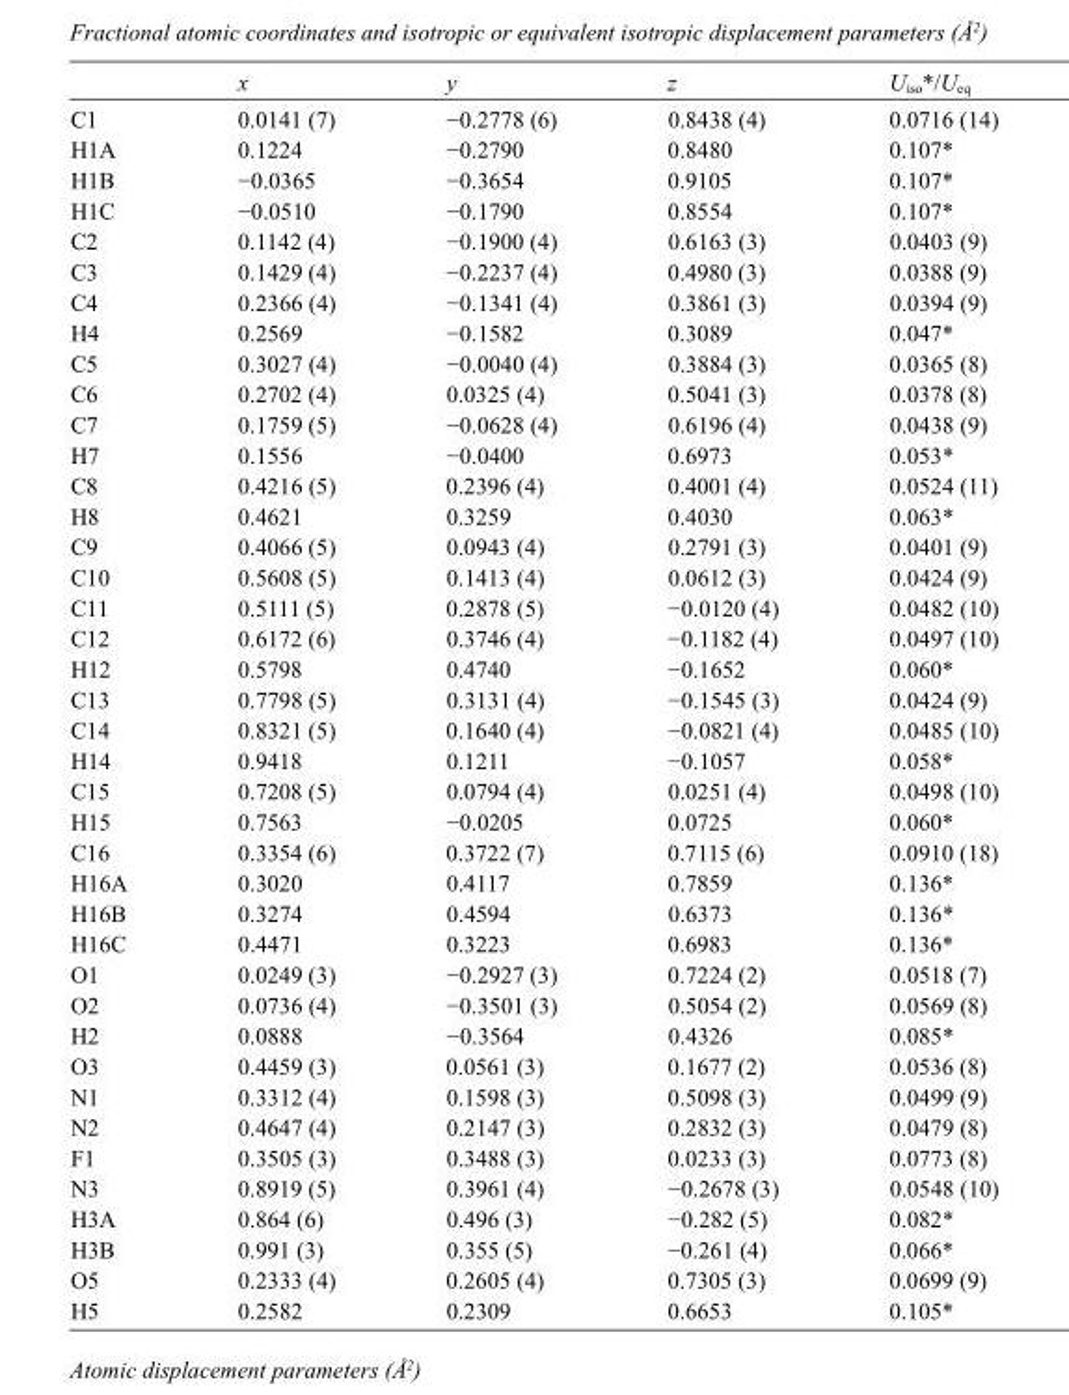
<table><thead><tr><td></td><td>x</td><td>y</td><td>z</td><td>U<sub>iso</sub>*/U<sub>eq</sub></td></tr></thead><tbody><tr><td>C1</td><td>0.0141 (7)</td><td>−0.2778 (6)</td><td>0.8438 (4)</td><td>0.0716 (14)</td></tr><tr><td>H1A</td><td>0.1224</td><td>−0.2790</td><td>0.8480</td><td>0.107*</td></tr><tr><td>H1B</td><td>−0.0365</td><td>−0.3654</td><td>0.9105</td><td>0.107*</td></tr><tr><td>H1C</td><td>−0.0510</td><td>−0.1790</td><td>0.8554</td><td>0.107*</td></tr><tr><td>C2</td><td>0.1142 (4)</td><td>−0.1900 (4)</td><td>0.6163 (3)</td><td>0.0403 (9)</td></tr><tr><td>C3</td><td>0.1429 (4)</td><td>−0.2237 (4)</td><td>0.4980 (3)</td><td>0.0388 (9)</td></tr><tr><td>C4</td><td>0.2366 (4)</td><td>−0.1341 (4)</td><td>0.3861 (3)</td><td>0.0394 (9)</td></tr><tr><td>H4</td><td>0.2569</td><td>−0.1582</td><td>0.3089</td><td>0.047*</td></tr><tr><td>C5</td><td>0.3027 (4)</td><td>−0.0040 (4)</td><td>0.3884 (3)</td><td>0.0365 (8)</td></tr><tr><td>C6</td><td>0.2702 (4)</td><td>0.0325 (4)</td><td>0.5041 (3)</td><td>0.0378 (8)</td></tr><tr><td>C7</td><td>0.1759 (5)</td><td>−0.0628 (4)</td><td>0.6196 (4)</td><td>0.0438 (9)</td></tr><tr><td>H7</td><td>0.1556</td><td>−0.0400</td><td>0.6973</td><td>0.053*</td></tr><tr><td>C8</td><td>0.4216 (5)</td><td>0.2396 (4)</td><td>0.4001 (4)</td><td>0.0524 (11)</td></tr><tr><td>H8</td><td>0.4621</td><td>0.3259</td><td>0.4030</td><td>0.063*</td></tr><tr><td>C9</td><td>0.4066 (5)</td><td>0.0943 (4)</td><td>0.2791 (3)</td><td>0.0401 (9)</td></tr><tr><td>C10</td><td>0.5608 (5)</td><td>0.1413 (4)</td><td>0.0612 (3)</td><td>0.0424 (9)</td></tr><tr><td>C11</td><td>0.5111 (5)</td><td>0.2878 (5)</td><td>−0.0120 (4)</td><td>0.0482 (10)</td></tr><tr><td>C12</td><td>0.6172 (6)</td><td>0.3746 (4)</td><td>−0.1182 (4)</td><td>0.0497 (10)</td></tr><tr><td>H12</td><td>0.5798</td><td>0.4740</td><td>−0.1652</td><td>0.060*</td></tr><tr><td>C13</td><td>0.7798 (5)</td><td>0.3131 (4)</td><td>−0.1545 (3)</td><td>0.0424 (9)</td></tr><tr><td>C14</td><td>0.8321 (5)</td><td>0.1640 (4)</td><td>−0.0821 (4)</td><td>0.0485 (10)</td></tr><tr><td>H14</td><td>0.9418</td><td>0.1211</td><td>−0.1057</td><td>0.058*</td></tr><tr><td>C15</td><td>0.7208 (5)</td><td>0.0794 (4)</td><td>0.0251 (4)</td><td>0.0498 (10)</td></tr><tr><td>H15</td><td>0.7563</td><td>−0.0205</td><td>0.0725</td><td>0.060*</td></tr><tr><td>C16</td><td>0.3354 (6)</td><td>0.3722 (7)</td><td>0.7115 (6)</td><td>0.0910 (18)</td></tr><tr><td>H16A</td><td>0.3020</td><td>0.4117</td><td>0.7859</td><td>0.136*</td></tr><tr><td>H16B</td><td>0.3274</td><td>0.4594</td><td>0.6373</td><td>0.136*</td></tr><tr><td>H16C</td><td>0.4471</td><td>0.3223</td><td>0.6983</td><td>0.136*</td></tr><tr><td>O1</td><td>0.0249 (3)</td><td>−0.2927 (3)</td><td>0.7224 (2)</td><td>0.0518 (7)</td></tr><tr><td>O2</td><td>0.0736 (4)</td><td>−0.3501 (3)</td><td>0.5054 (2)</td><td>0.0569 (8)</td></tr><tr><td>H2</td><td>0.0888</td><td>−0.3564</td><td>0.4326</td><td>0.085*</td></tr><tr><td>O3</td><td>0.4459 (3)</td><td>0.0561 (3)</td><td>0.1677 (2)</td><td>0.0536 (8)</td></tr><tr><td>N1</td><td>0.3312 (4)</td><td>0.1598 (3)</td><td>0.5098 (3)</td><td>0.0499 (9)</td></tr><tr><td>N2</td><td>0.4647 (4)</td><td>0.2147 (3)</td><td>0.2832 (3)</td><td>0.0479 (8)</td></tr><tr><td>F1</td><td>0.3505 (3)</td><td>0.3488 (3)</td><td>0.0233 (3)</td><td>0.0773 (8)</td></tr><tr><td>N3</td><td>0.8919 (5)</td><td>0.3961 (4)</td><td>−0.2678 (3)</td><td>0.0548 (10)</td></tr><tr><td>H3A</td><td>0.864 (6)</td><td>0.496 (3)</td><td>−0.282 (5)</td><td>0.082*</td></tr><tr><td>H3B</td><td>0.991 (3)</td><td>0.355 (5)</td><td>−0.261 (4)</td><td>0.066*</td></tr><tr><td>O5</td><td>0.2333 (4)</td><td>0.2605 (4)</td><td>0.7305 (3)</td><td>0.0699 (9)</td></tr><tr><td>H5</td><td>0.2582</td><td>0.2309</td><td>0.6653</td><td>0.105*</td></tr></tbody></table>